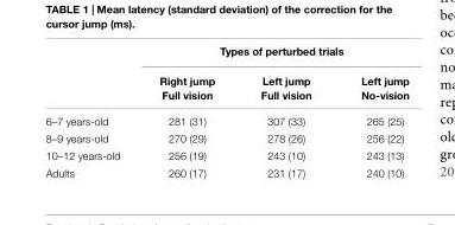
<table><thead><tr><td rowspan="2"></td><td colspan="3">Types of perturbed trials</td></tr><tr><td>Right jump Full vision</td><td>Left jump Full vision</td><td>Left jump No-vision</td></tr></thead><tbody><tr><td>6–7 years-old</td><td>281 (31)</td><td>307 (33)</td><td>265 (25)</td></tr><tr><td>8–9 years-old</td><td>270 (29)</td><td>278 (26)</td><td>256 (22)</td></tr><tr><td>10–12 years-old</td><td>256 (19)</td><td>243 (10)</td><td>243 (13)</td></tr><tr><td>Adults</td><td>260 (17)</td><td>231 (17)</td><td>240 (10)</td></tr></tbody></table>